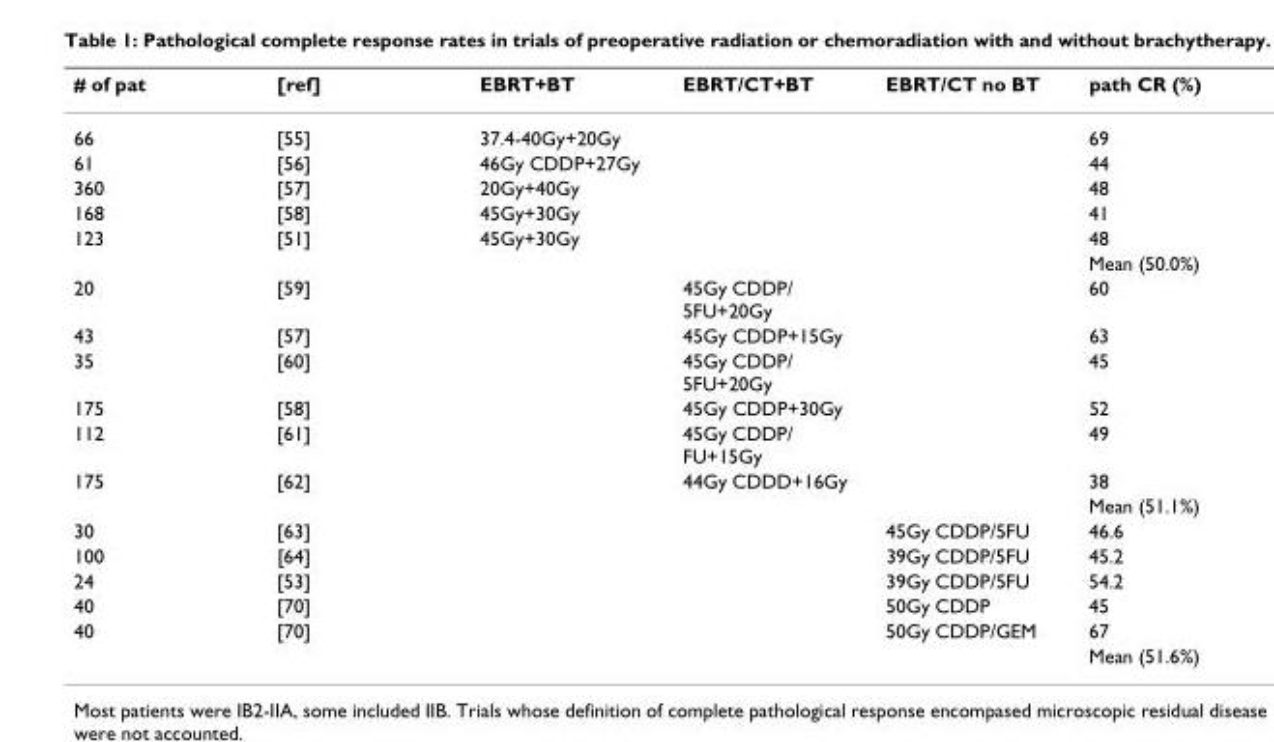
<table><thead><tr><td># of pat</td><td>[ref]</td><td>EBRT+BT</td><td>EBRT/CT+BT</td><td>EBRT/CT no BT</td><td>path CR (%)</td></tr></thead><tbody><tr><td>66</td><td>[55]</td><td>37.4-40Gy+20Gy</td><td></td><td></td><td>69</td></tr><tr><td>61</td><td>[56]</td><td>46Gy CDDP+27Gy</td><td></td><td></td><td>44</td></tr><tr><td>360</td><td>[57]</td><td>20Gy+40Gy</td><td></td><td></td><td>48</td></tr><tr><td>168</td><td>[58]</td><td>45Gy+30Gy</td><td></td><td></td><td>41</td></tr><tr><td rowspan="2">123</td><td>[51]</td><td>45Gy+30Gy</td><td></td><td></td><td>48</td></tr><tr><td></td><td></td><td></td><td></td><td>Mean (50.0%)</td></tr><tr><td>20</td><td>[59]</td><td></td><td>45Gy CDDP/ 5FU+20Gy</td><td></td><td>60</td></tr><tr><td>43</td><td>[57]</td><td></td><td>45Gy CDDP+15Gy</td><td></td><td>63</td></tr><tr><td>35</td><td>[60]</td><td></td><td>45Gy CDDP/ 5FU+20Gy</td><td></td><td>45</td></tr><tr><td>175</td><td>[58]</td><td></td><td>45Gy CDDP+30Gy</td><td></td><td>52</td></tr><tr><td>112</td><td>[61]</td><td></td><td>45Gy CDDP/ FU+15Gy</td><td></td><td>49</td></tr><tr><td rowspan="2">175</td><td>[62]</td><td></td><td>44Gy CDDD+16Gy</td><td></td><td>38</td></tr><tr><td></td><td></td><td></td><td></td><td>Mean (51.1%)</td></tr><tr><td>30</td><td>[63]</td><td></td><td></td><td>45Gy CDDP/5FU</td><td>46.6</td></tr><tr><td>100</td><td>[64]</td><td></td><td></td><td>39Gy CDDP/5FU</td><td>45.2</td></tr><tr><td>24</td><td>[53]</td><td></td><td></td><td>39Gy CDDP/5FU</td><td>54.2</td></tr><tr><td>40</td><td>[70]</td><td></td><td></td><td>50Gy CDDP</td><td>45</td></tr><tr><td rowspan="2">40</td><td>[70]</td><td></td><td></td><td>50Gy CDDP/GEM</td><td>67</td></tr><tr><td></td><td></td><td></td><td></td><td>Mean (51.6%)</td></tr></tbody></table>